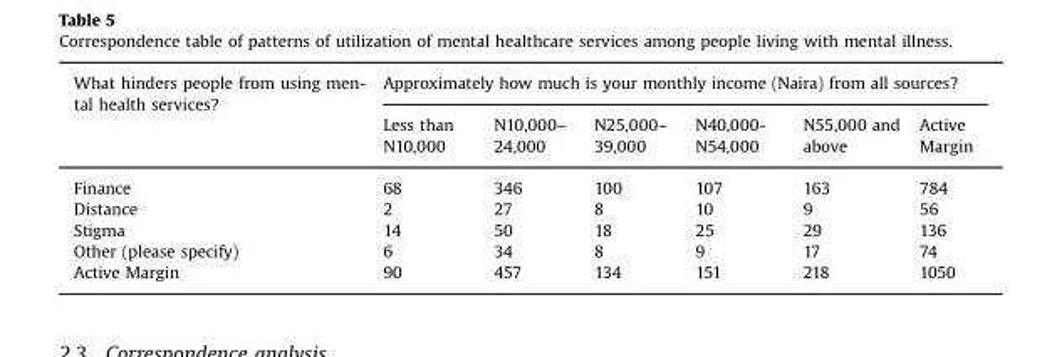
<table><thead><tr><td rowspan="2">What hinders people from using men- tal health services?</td><td colspan="6">Approximately how much is your monthly income (Naira) from all sources?</td></tr><tr><td>Less than N10,000</td><td>N10,000– 24,000</td><td>N25,000– 39,000</td><td>N40,000- N54,000</td><td>N55,000 and above</td><td>Active Margin</td></tr></thead><tbody><tr><td>Finance</td><td>68</td><td>346</td><td>100</td><td>107</td><td>163</td><td>784</td></tr><tr><td>Distance</td><td>2</td><td>27</td><td>8</td><td>10</td><td>9</td><td>56</td></tr><tr><td>Stigma</td><td>14</td><td>50</td><td>18</td><td>25</td><td>29</td><td>136</td></tr><tr><td>Other (please specify)</td><td>6</td><td>34</td><td>8</td><td>9</td><td>17</td><td>74</td></tr><tr><td>Active Margin</td><td>90</td><td>457</td><td>134</td><td>151</td><td>218</td><td>1050</td></tr></tbody></table>